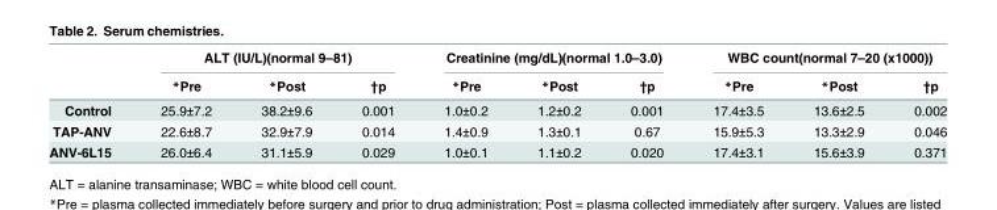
<table><thead><tr><td rowspan="2"></td><td colspan="3">ALT (IU/L)(normal 9–81)</td><td colspan="3">Creatinine (mg/dL)(normal 1.0–3.0)</td><td colspan="3">WBC count(normal 7–20 (x1000))</td></tr><tr><td>*Pre</td><td>*Post</td><td>†p</td><td>*Pre</td><td>*Post</td><td>†p</td><td>*Pre</td><td>*Post</td><td>†p</td></tr></thead><tbody><tr><td>Control</td><td>25.9±7.2</td><td>38.2±9.6</td><td>0.001</td><td>1.0±0.2</td><td>1.2±0.2</td><td>0.001</td><td>17.4±3.5</td><td>13.6±2.5</td><td>0.002</td></tr><tr><td>TAP-ANV</td><td>22.6±8.7</td><td>32.9±7.9</td><td>0.014</td><td>1.4±0.9</td><td>1.3±0.1</td><td>0.67</td><td>15.9±5.3</td><td>13.3±2.9</td><td>0.046</td></tr><tr><td>ANV-6L15</td><td>26.0±6.4</td><td>31.1±5.9</td><td>0.029</td><td>1.0±0.1</td><td>1.1±0.2</td><td>0.020</td><td>17.4±3.1</td><td>15.6±3.9</td><td>0.371</td></tr></tbody></table>